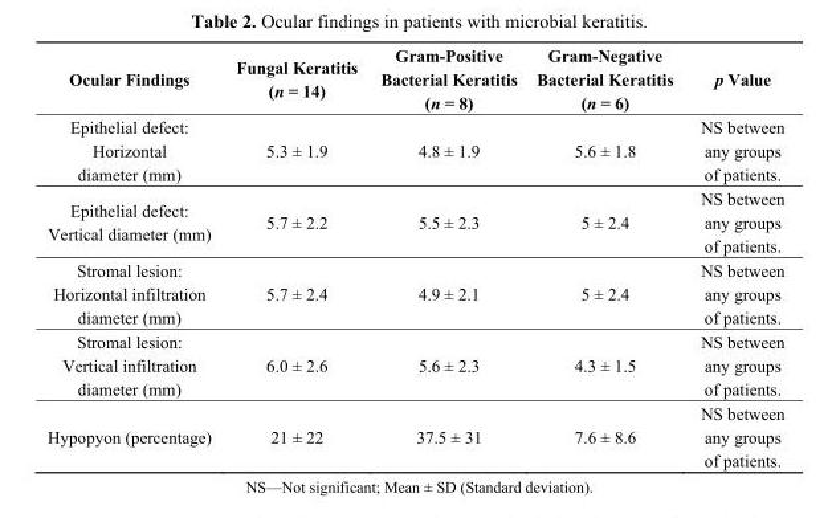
<table><thead><tr><td>Ocular Findings</td><td>Fungal Keratitis (n = 14)</td><td>Gram-Positive Bacterial Keratitis (n = 8)</td><td>Gram-Negative Bacterial Keratitis (n = 6)</td><td>p Value</td></tr></thead><tbody><tr><td>Epithelial defect: Horizontal diameter (mm)</td><td>5.3 ± 1.9</td><td>4.8 ± 1.9</td><td>5.6 ± 1.8</td><td>NS between any groups of patients.</td></tr><tr><td>Epithelial defect: Vertical diameter (mm)</td><td>5.7 ± 2.2</td><td>5.5 ± 2.3</td><td>5 ± 2.4</td><td>NS between any groups of patients.</td></tr><tr><td>Stromal lesion: Horizontal infiltration diameter (mm)</td><td>5.7 ± 2.4</td><td>4.9 ± 2.1</td><td>5 ± 2.4</td><td>NS between any groups of patients.</td></tr><tr><td>Stromal lesion: Vertical infiltration diameter (mm)</td><td>6.0 ± 2.6</td><td>5.6 ± 2.3</td><td>4.3 ± 1.5</td><td>NS between any groups of patients.</td></tr><tr><td>Hypopyon (percentage)</td><td>21 ± 22</td><td>37.5 ± 31</td><td>7.6 ± 8.6</td><td>NS between any groups of patients.</td></tr></tbody></table>